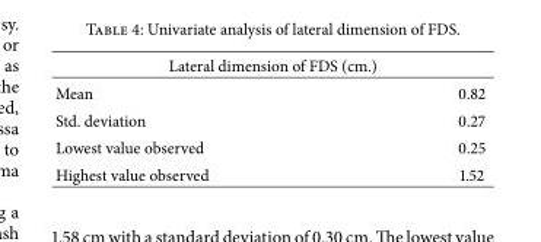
<table><thead><tr><td colspan="2">Lateral dimension of FDS (cm.)</td></tr><tr><td>Mean</td><td>0.82</td></tr></thead><tbody><tr><td>Std. deviation</td><td>0.27</td></tr><tr><td>Lowest value observed</td><td>0.25</td></tr><tr><td>Highest value observed</td><td>1.52</td></tr></tbody></table>